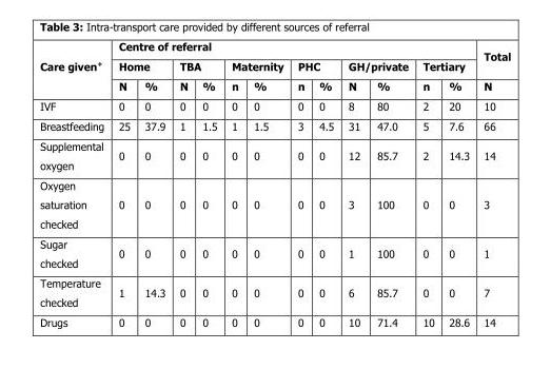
<table><thead><tr><td rowspan="3">Care given<sup>+</sup></td><td colspan="12">Centre of referral</td><td rowspan="3">Total N</td></tr><tr><td colspan="2">Home</td><td colspan="2">TBA</td><td colspan="2">Maternity</td><td colspan="2">PHC</td><td colspan="2">GH/private</td><td colspan="2">Tertiary</td></tr><tr><td>N</td><td>%</td><td>N</td><td>%</td><td>n</td><td>%</td><td>n</td><td>%</td><td>N</td><td>%</td><td>n</td><td>%</td></tr></thead><tbody><tr><td>IVF</td><td>0</td><td>0</td><td>0</td><td>0</td><td>0</td><td>0</td><td>0</td><td>0</td><td>8</td><td>80</td><td>2</td><td>20</td><td>10</td></tr><tr><td>Breastfeeding</td><td>25</td><td>37.9</td><td>1</td><td>1.5</td><td>1</td><td>1.5</td><td>3</td><td>4.5</td><td>31</td><td>47.0</td><td>5</td><td>7.6</td><td>66</td></tr><tr><td>Supplemental oxygen</td><td>0</td><td>0</td><td>0</td><td>0</td><td>0</td><td>0</td><td>0</td><td>0</td><td>12</td><td>85.7</td><td>2</td><td>14.3</td><td>14</td></tr><tr><td>Oxygen saturation checked</td><td>0</td><td>0</td><td>0</td><td>0</td><td>0</td><td>0</td><td>0</td><td>0</td><td>3</td><td>100</td><td>0</td><td>0</td><td>3</td></tr><tr><td>Sugar checked</td><td>0</td><td>0</td><td>0</td><td>0</td><td>0</td><td>0</td><td>0</td><td>0</td><td>1</td><td>100</td><td>0</td><td>0</td><td>1</td></tr><tr><td>Temperature checked</td><td>1</td><td>14.3</td><td>0</td><td>0</td><td>0</td><td>0</td><td>0</td><td>0</td><td>6</td><td>85.7</td><td>0</td><td>0</td><td>7</td></tr><tr><td>Drugs</td><td>0</td><td>0</td><td>0</td><td>0</td><td>0</td><td>0</td><td>0</td><td>0</td><td>10</td><td>71.4</td><td>10</td><td>28.6</td><td>14</td></tr></tbody></table>